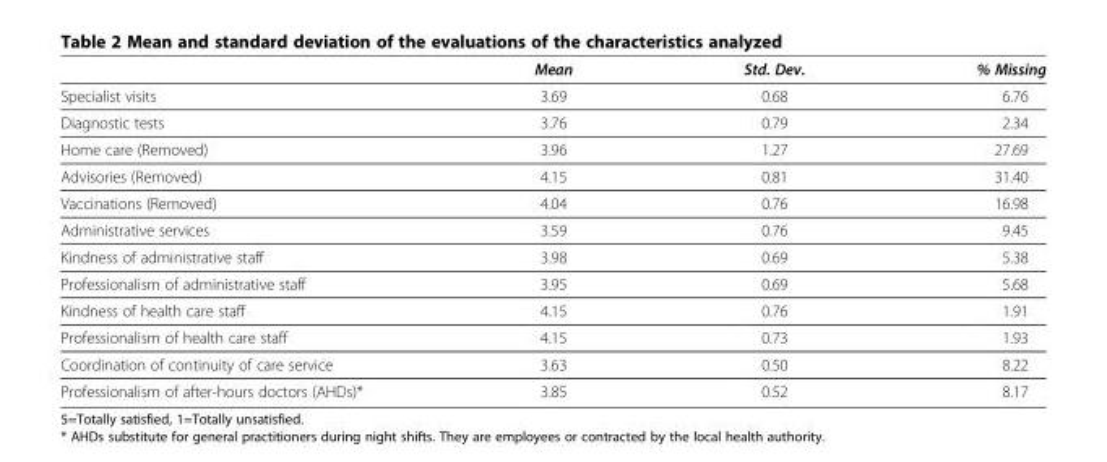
<table><thead><tr><td></td><td>Mean</td><td>Std. Dev.</td><td>% Missing</td></tr></thead><tbody><tr><td>Specialist visits</td><td>3.69</td><td>0.68</td><td>6.76</td></tr><tr><td>Diagnostic tests</td><td>3.76</td><td>0.79</td><td>2.34</td></tr><tr><td>Home care (Removed)</td><td>3.96</td><td>1.27</td><td>27.69</td></tr><tr><td>Advisories (Removed)</td><td>4.15</td><td>0.81</td><td>31.40</td></tr><tr><td>Vaccinations (Removed)</td><td>4.04</td><td>0.76</td><td>16.98</td></tr><tr><td>Administrative services</td><td>3.59</td><td>0.76</td><td>9.45</td></tr><tr><td>Kindness of administrative staff</td><td>3.98</td><td>0.69</td><td>5.38</td></tr><tr><td>Professionalism of administrative staff</td><td>3.95</td><td>0.69</td><td>5.68</td></tr><tr><td>Kindness of health care staff</td><td>4.15</td><td>0.76</td><td>1.91</td></tr><tr><td>Professionalism of health care staff</td><td>4.15</td><td>0.73</td><td>1.93</td></tr><tr><td>Coordination of continuity of care service</td><td>3.63</td><td>0.50</td><td>8.22</td></tr><tr><td>Professionalism of after-hours doctors (AHDs)*</td><td>3.85</td><td>0.52</td><td>8.17</td></tr></tbody></table>